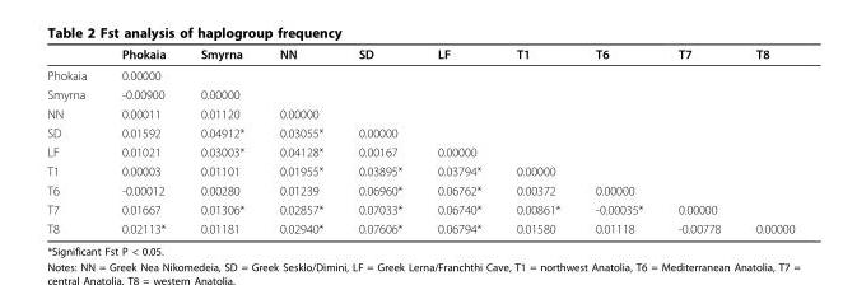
<table><thead><tr><td></td><td>Phokaia</td><td>Smyrna</td><td>NN</td><td>SD</td><td>LF</td><td>T1</td><td>T6</td><td>T7</td><td>T8</td></tr></thead><tbody><tr><td>Phokaia</td><td>0.00000</td><td></td><td></td><td></td><td></td><td></td><td></td><td></td><td></td></tr><tr><td>Smyrna</td><td>-0.00900</td><td>0.00000</td><td></td><td></td><td></td><td></td><td></td><td></td><td></td></tr><tr><td>NN</td><td>0.00011</td><td>0.01120</td><td>0.00000</td><td></td><td></td><td></td><td></td><td></td><td></td></tr><tr><td>SD</td><td>0.01592</td><td>0.04912*</td><td>0.03055*</td><td>0.00000</td><td></td><td></td><td></td><td></td><td></td></tr><tr><td>LF</td><td>0.01021</td><td>0.03003*</td><td>0.04128*</td><td>0.00167</td><td>0.00000</td><td></td><td></td><td></td><td></td></tr><tr><td>T1</td><td>0.00003</td><td>0.01101</td><td>0.01955*</td><td>0.03895*</td><td>0.03794*</td><td>0.00000</td><td></td><td></td><td></td></tr><tr><td>T6</td><td>-0.00012</td><td>0.00280</td><td>0.01239</td><td>0.06960*</td><td>0.06762*</td><td>0.00372</td><td>0.00000</td><td></td><td></td></tr><tr><td>T7</td><td>0.01667</td><td>0.01306*</td><td>0.02857*</td><td>0.07033*</td><td>0.06740*</td><td>0.00861*</td><td>-0.00035*</td><td>0.00000</td><td></td></tr><tr><td>T8</td><td>0.02113*</td><td>0.01181</td><td>0.02940*</td><td>0.07606*</td><td>0.06794*</td><td>0.01580</td><td>0.01118</td><td>-0.00778</td><td>0.00000</td></tr></tbody></table>